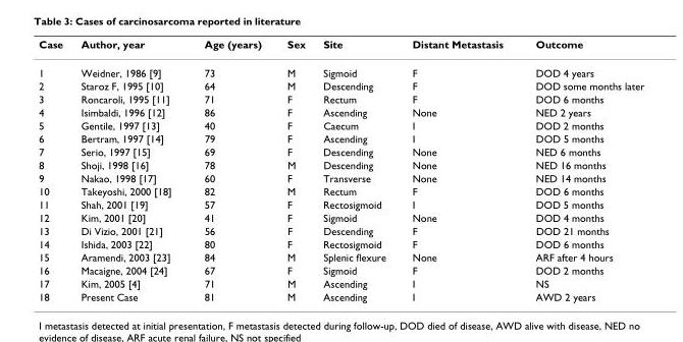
<table><thead><tr><td>Case</td><td>Author, year</td><td>Age (years)</td><td>Sex</td><td>Site</td><td>Distant Metastasis</td><td>Outcome</td></tr></thead><tbody><tr><td>1</td><td>Weidner, 1986 [9]</td><td>73</td><td>M</td><td>Sigmoid</td><td>F</td><td>DOD 4 years</td></tr><tr><td>2</td><td>Staroz F, 1995 [10]</td><td>64</td><td>M</td><td>Descending</td><td>F</td><td>DOD some months later</td></tr><tr><td>3</td><td>Roncaroli, 1995 [11]</td><td>71</td><td>F</td><td>Rectum</td><td>F</td><td>DOD 6 months</td></tr><tr><td>4</td><td>Isimbaldi, 1996 [12]</td><td>86</td><td>F</td><td>Ascending</td><td>None</td><td>NED 2 years</td></tr><tr><td>5</td><td>Gentile, 1997 [13]</td><td>40</td><td>F</td><td>Caecum</td><td>I</td><td>DOD 2 months</td></tr><tr><td>6</td><td>Bertram, 1997 [14]</td><td>79</td><td>F</td><td>Ascending</td><td>I</td><td>DOD 5 months</td></tr><tr><td>7</td><td>Serio, 1997 [15]</td><td>69</td><td>F</td><td>Descending</td><td>None</td><td>NED 6 months</td></tr><tr><td>8</td><td>Shoji, 1998 [16]</td><td>78</td><td>M</td><td>Descending</td><td>None</td><td>NED 16 months</td></tr><tr><td>9</td><td>Nakao, 1998 [17]</td><td>60</td><td>F</td><td>Transverse</td><td>None</td><td>NED 14 months</td></tr><tr><td>10</td><td>Takeyoshi, 2000 [18]</td><td>82</td><td>M</td><td>Rectum</td><td>F</td><td>DOD 6 months</td></tr><tr><td>11</td><td>Shah, 2001 [19]</td><td>57</td><td>F</td><td>Rectosigmoid</td><td>I</td><td>DOD 5 months</td></tr><tr><td>12</td><td>Kim, 2001 [20]</td><td>41</td><td>F</td><td>Sigmoid</td><td>None</td><td>DOD 4 months</td></tr><tr><td>13</td><td>Di Vizio, 2001 [21]</td><td>56</td><td>F</td><td>Descending</td><td>F</td><td>DOD 21 months</td></tr><tr><td>14</td><td>Ishida, 2003 [22]</td><td>80</td><td>F</td><td>Rectosigmoid</td><td>F</td><td>DOD 6 months</td></tr><tr><td>15</td><td>Aramendi, 2003 [23]</td><td>84</td><td>M</td><td>Splenic flexure</td><td>None</td><td>ARF after 4 hours</td></tr><tr><td>16</td><td>Macaigne, 2004 [24]</td><td>67</td><td>F</td><td>Sigmoid</td><td>F</td><td>DOD 2 months</td></tr><tr><td>17</td><td>Kim, 2005 [4]</td><td>71</td><td>M</td><td>Ascending</td><td>I</td><td>NS</td></tr><tr><td>18</td><td>Present Case</td><td>81</td><td>M</td><td>Ascending</td><td>I</td><td>AWD 2 years</td></tr></tbody></table>